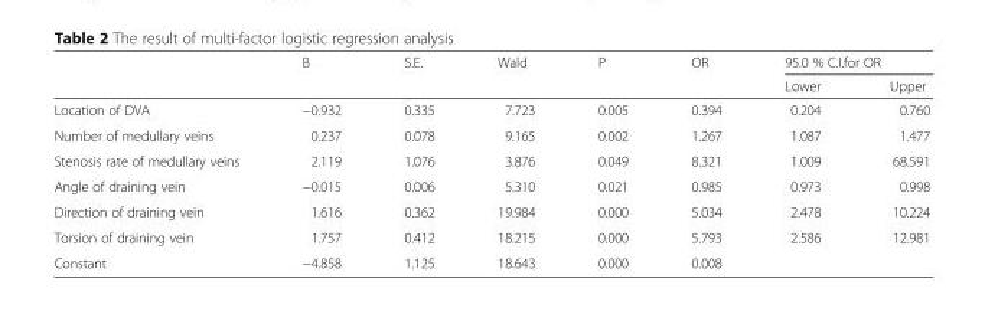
<table><thead><tr><td rowspan="2"></td><td rowspan="2">B</td><td rowspan="2">S.E.</td><td rowspan="2">Wald</td><td rowspan="2">P</td><td rowspan="2">OR</td><td colspan="2">95.0 % C.I.for OR</td></tr><tr><td>Lower</td><td>Upper</td></tr></thead><tbody><tr><td>Location of DVA</td><td>−0.932</td><td>0.335</td><td>7.723</td><td>0.005</td><td>0.394</td><td>0.204</td><td>0.760</td></tr><tr><td>Number of medullary veins</td><td>0.237</td><td>0.078</td><td>9.165</td><td>0.002</td><td>1.267</td><td>1.087</td><td>1.477</td></tr><tr><td>Stenosis rate of medullary veins</td><td>2.119</td><td>1.076</td><td>3.876</td><td>0.049</td><td>8.321</td><td>1.009</td><td>68.591</td></tr><tr><td>Angle of draining vein</td><td>−0.015</td><td>0.006</td><td>5.310</td><td>0.021</td><td>0.985</td><td>0.973</td><td>0.998</td></tr><tr><td>Direction of draining vein</td><td>1.616</td><td>0.362</td><td>19.984</td><td>0.000</td><td>5.034</td><td>2.478</td><td>10.224</td></tr><tr><td>Torsion of draining vein</td><td>1.757</td><td>0.412</td><td>18.215</td><td>0.000</td><td>5.793</td><td>2.586</td><td>12.981</td></tr><tr><td>Constant</td><td>−4.858</td><td>1.125</td><td>18.643</td><td>0.000</td><td>0.008</td><td></td><td></td></tr></tbody></table>